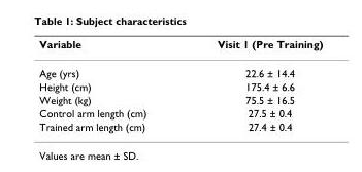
<table><thead><tr><td>Variable</td><td>Visit 1 (Pre Training)</td></tr></thead><tbody><tr><td>Age (yrs)</td><td>22.6 ± 14.4</td></tr><tr><td>Height (cm)</td><td>175.4 ± 6.6</td></tr><tr><td>Weight (kg)</td><td>75.5 ± 16.5</td></tr><tr><td>Control arm length (cm)</td><td>27.5 ± 0.4</td></tr><tr><td>Trained arm length (cm)</td><td>27.4 ± 0.4</td></tr></tbody></table>